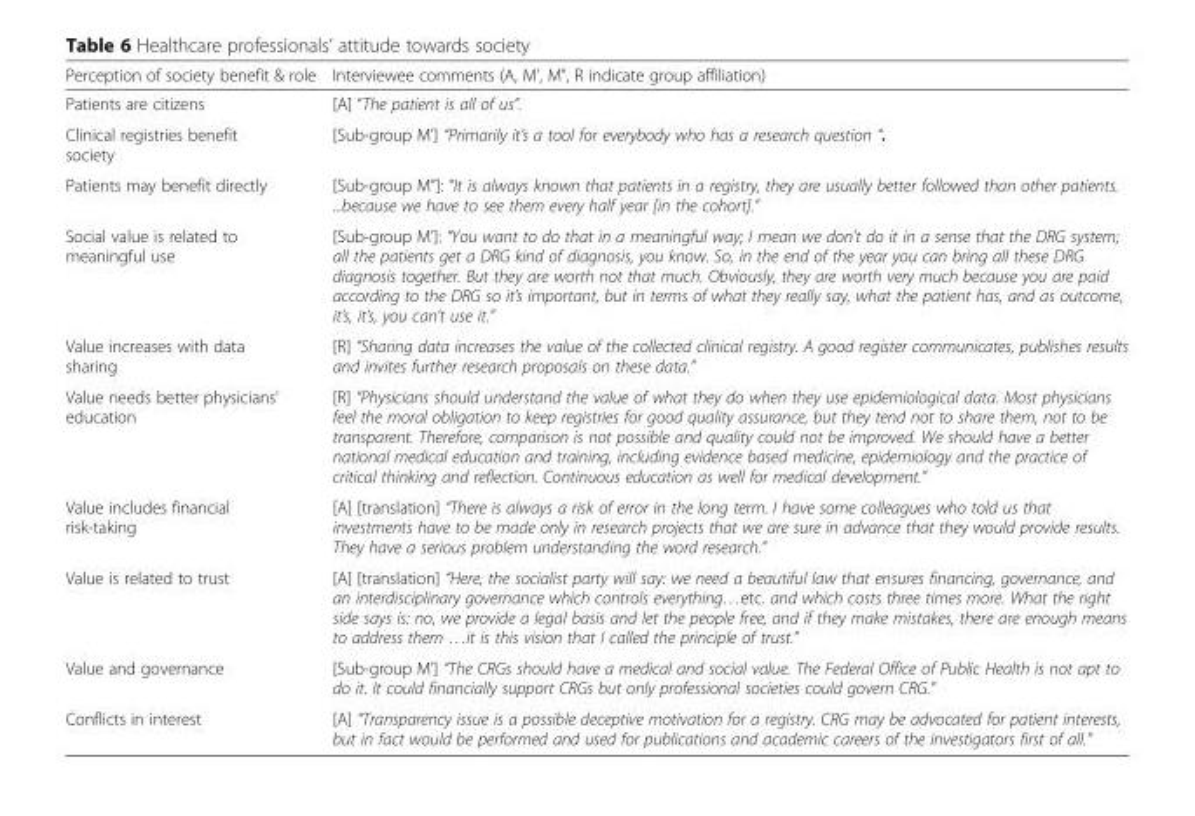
<table><thead><tr><td>Perception of society benefit &amp; role</td><td>Interviewee comments (A, M’, M”, R indicate group affiliation)</td></tr></thead><tbody><tr><td>Patients are citizens</td><td>[A] “The patient is all of us”.</td></tr><tr><td>Clinical registries benefit society</td><td>[Sub-group M’] “Primarily it’s a tool for everybody who has a research question “.</td></tr><tr><td>Patients may benefit directly</td><td>[Sub-group M”]: “It is always known that patients in a registry, they are usually better followed than other patients. ...because we have to see them every half year [in the cohort].”</td></tr><tr><td>Social value is related to meaningful use</td><td>[Sub-group M’]: “You want to do that in a meaningful way; I mean we don’t do it in a sense that the DRG system; all the patients get a DRG kind of diagnosis, you know. So, in the end of the year you can bring all these DRG diagnosis together. But they are worth not that much. Obviously, they are worth very much because you are paid according to the DRG so it’s important, but in terms of what they really say, what the patient has, and as outcome, it’s, it’s, you can’t use it.”</td></tr><tr><td>Value increases with data sharing</td><td>[R] “Sharing data increases the value of the collected clinical registry. A good register communicates, publishes results and invites further research proposals on these data.”</td></tr><tr><td>Value needs better physicians’ education</td><td>[R] “Physicians should understand the value of what they do when they use epidemiological data. Most physicians feel the moral obligation to keep registries for good quality assurance, but they tend not to share them, not to be transparent. Therefore, comparison is not possible and quality could not be improved. We should have a better national medical education and training, including evidence based medicine, epidemiology and the practice of critical thinking and reflection. Continuous education as well for medical development.”</td></tr><tr><td>Value includes financial risk-taking</td><td>[A] [translation] “There is always a risk of error in the long term. I have some colleagues who told us that investments have to be made only in research projects that we are sure in advance that they would provide results. They have a serious problem understanding the word research.”</td></tr><tr><td>Value is related to trust</td><td>[A] [translation] “Here, the socialist party will say: we need a beautiful law that ensures financing, governance, and an interdisciplinary governance which controls everything…etc. and which costs three times more. What the right side says is: no, we provide a legal basis and let the people free, and if they make mistakes, there are enough means to address them …it is this vision that I called the principle of trust.”</td></tr><tr><td>Value and governance</td><td>[Sub-group M’] “The CRGs should have a medical and social value. The Federal Office of Public Health is not apt to do it. It could financially support CRGs but only professional societies could govern CRG.”</td></tr><tr><td>Conflicts in interest</td><td>[A] “Transparency issue is a possible deceptive motivation for a registry. CRG may be advocated for patient interests, but in fact would be performed and used for publications and academic careers of the investigators first of all.”</td></tr></tbody></table>